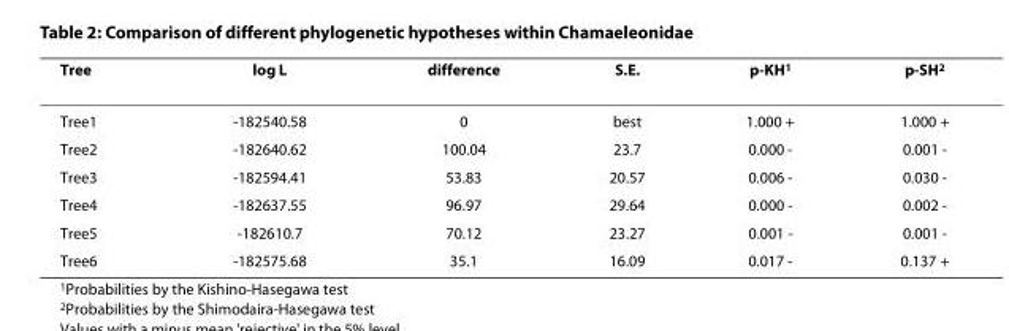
<table><thead><tr><td>Tree</td><td>log L</td><td>difference</td><td>S.E.</td><td>p-KH<sup>1</sup></td><td>p-SH<sup>2</sup></td></tr></thead><tbody><tr><td>Tree1</td><td>-182540.58</td><td>0</td><td>best</td><td>1.000 +</td><td>1.000 +</td></tr><tr><td>Tree2</td><td>-182640.62</td><td>100.04</td><td>23.7</td><td>0.000 -</td><td>0.001 -</td></tr><tr><td>Tree3</td><td>-182594.41</td><td>53.83</td><td>20.57</td><td>0.006 -</td><td>0.030 -</td></tr><tr><td>Tree4</td><td>-182637.55</td><td>96.97</td><td>29.64</td><td>0.000 -</td><td>0.002 -</td></tr><tr><td>Tree5</td><td>-182610.7</td><td>70.12</td><td>23.27</td><td>0.001 -</td><td>0.001 -</td></tr><tr><td>Tree6</td><td>-182575.68</td><td>35.1</td><td>16.09</td><td>0.017 -</td><td>0.137 +</td></tr></tbody></table>